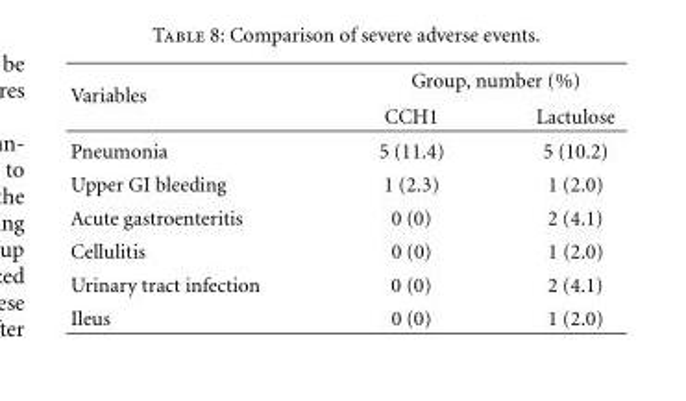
<table><thead><tr><td rowspan="2">Variables</td><td colspan="2">Group, number (%)</td></tr><tr><td>CCH1</td><td>Lactulose</td></tr></thead><tbody><tr><td>Pneumonia</td><td>5 (11.4)</td><td>5 (10.2)</td></tr><tr><td>Upper GI bleeding</td><td>1 (2.3)</td><td>1 (2.0)</td></tr><tr><td>Acute gastroenteritis</td><td>0 (0)</td><td>2 (4.1)</td></tr><tr><td>Cellulitis</td><td>0 (0)</td><td>1 (2.0)</td></tr><tr><td>Urinary tract infection</td><td>0 (0)</td><td>2 (4.1)</td></tr><tr><td>Ileus</td><td>0 (0)</td><td>1 (2.0)</td></tr></tbody></table>